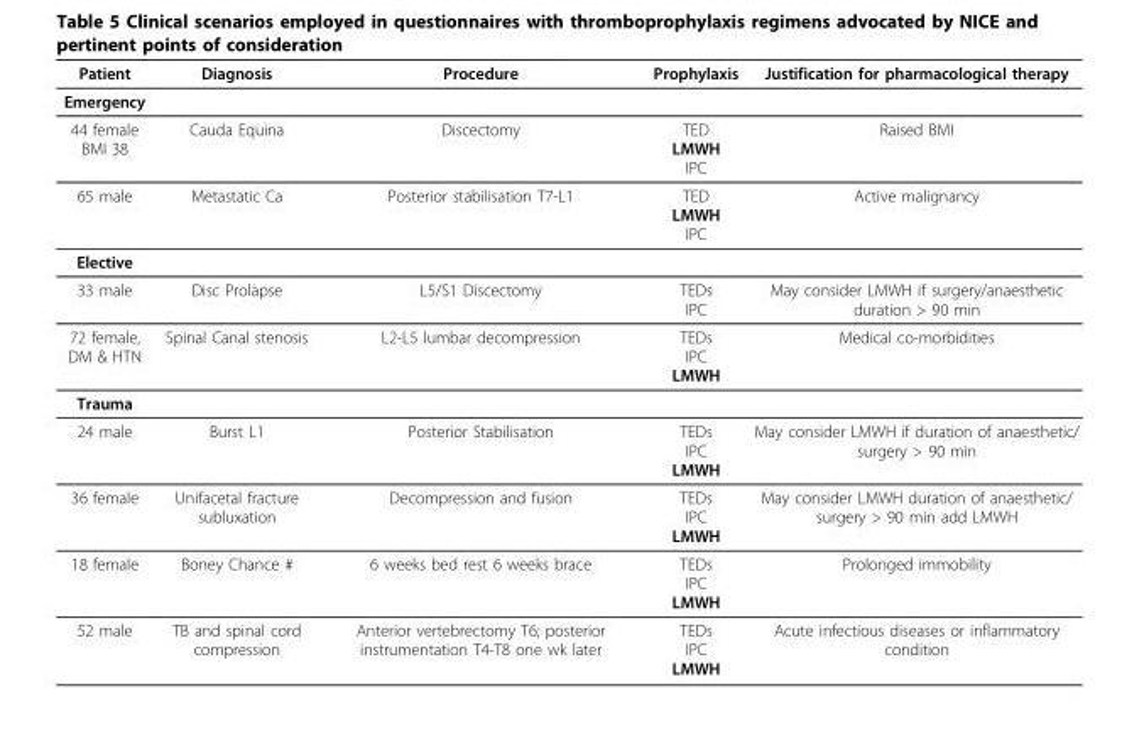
<table><thead><tr><td>Patient</td><td>Diagnosis</td><td>Procedure</td><td>Prophylaxis</td><td>Justification for pharmacological therapy</td></tr></thead><tbody><tr><td colspan="5">Emergency</td></tr><tr><td>44 female BMI 38</td><td>Cauda Equina</td><td>Discectomy</td><td>TED LMWH IPC</td><td>Raised BMI</td></tr><tr><td>65 male</td><td>Metastatic Ca</td><td>Posterior stabilisation T7-L1</td><td>TED LMWH IPC</td><td>Active malignancy</td></tr><tr><td colspan="5">Elective</td></tr><tr><td>33 male</td><td>Disc Prolapse</td><td>L5/S1 Discectomy</td><td>TEDs IPC</td><td>May consider LMWH if surgery/anaesthetic duration &gt; 90 min</td></tr><tr><td>72 female, DM &amp; HTN</td><td>Spinal Canal stenosis</td><td>L2-L5 lumbar decompression</td><td>TEDs IPC LMWH</td><td>Medical co-morbidities</td></tr><tr><td colspan="5">Trauma</td></tr><tr><td>24 male</td><td>Burst L1</td><td>Posterior Stabilisation</td><td>TEDs IPC LMWH</td><td>May consider LMWH if duration of anaesthetic/ surgery &gt; 90 min</td></tr><tr><td>36 female</td><td>Unifacetal fracture subluxation</td><td>Decompression and fusion</td><td>TEDs IPC LMWH</td><td>May consider LMWH duration of anaesthetic/ surgery &gt; 90 min add LMWH</td></tr><tr><td>18 female</td><td>Boney Chance #</td><td>6 weeks bed rest 6 weeks brace</td><td>TEDs IPC LMWH</td><td>Prolonged immobility</td></tr><tr><td>52 male</td><td>TB and spinal cord compression</td><td>Anterior vertebrectomy T6; posterior instrumentation T4-T8 one wk later</td><td>TEDs IPC LMWH</td><td>Acute infectious diseases or inflammatory condition</td></tr></tbody></table>